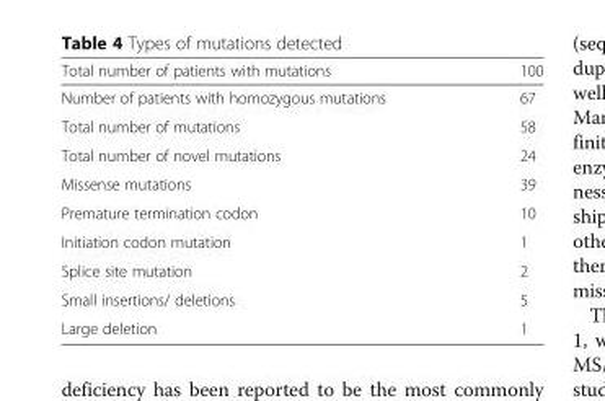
<table><thead><tr><td>Total number of patients with mutations</td><td>100</td></tr></thead><tbody><tr><td>Number of patients with homozygous mutations</td><td>67</td></tr><tr><td>Total number of mutations</td><td>58</td></tr><tr><td>Total number of novel mutations</td><td>24</td></tr><tr><td>Missense mutations</td><td>39</td></tr><tr><td>Premature termination codon</td><td>10</td></tr><tr><td>Initiation codon mutation</td><td>1</td></tr><tr><td>Splice site mutation</td><td>2</td></tr><tr><td>Small insertions/ deletions</td><td>5</td></tr><tr><td>Large deletion</td><td>1</td></tr></tbody></table>